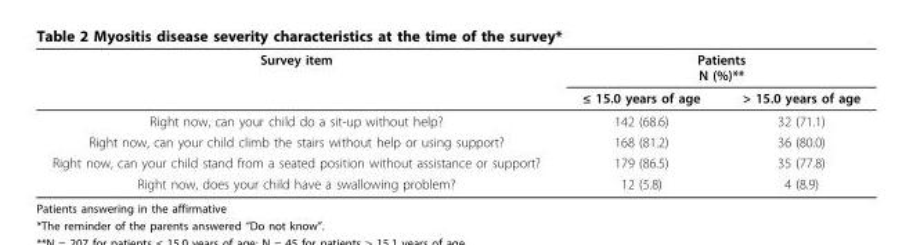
<table><thead><tr><td rowspan="2">Survey item</td><td colspan="2">Patients N (%)**</td></tr><tr><td>≤ 15.0 years of age</td><td>&gt; 15.0 years of age</td></tr></thead><tbody><tr><td>Right now, can your child do a sit-up without help?</td><td>142 (68.6)</td><td>32 (71.1)</td></tr><tr><td>Right now, can your child climb the stairs without help or using support?</td><td>168 (81.2)</td><td>36 (80.0)</td></tr><tr><td>Right now, can your child stand from a seated position without assistance or support?</td><td>179 (86.5)</td><td>35 (77.8)</td></tr><tr><td>Right now, does your child have a swallowing problem?</td><td>12 (5.8)</td><td>4 (8.9)</td></tr></tbody></table>